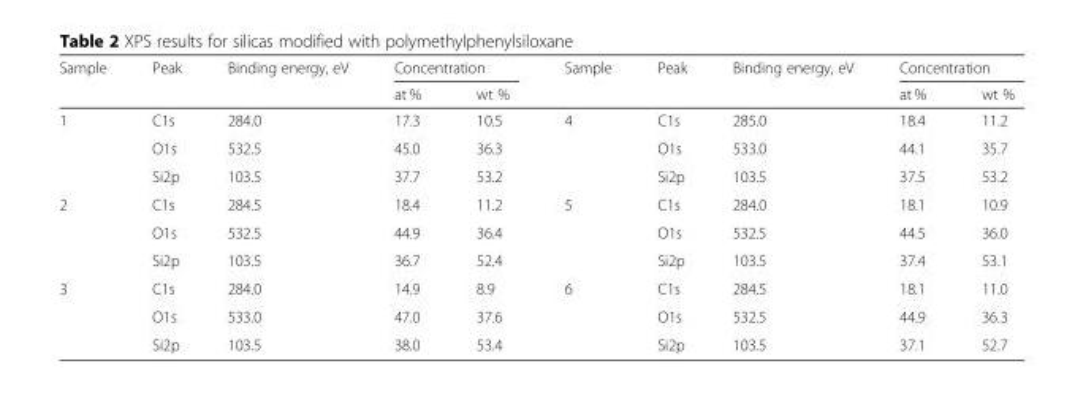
<table><thead><tr><td rowspan="2">Sample</td><td rowspan="2">Peak</td><td rowspan="2">Binding energy, eV</td><td colspan="2">Concentration</td><td rowspan="2">Sample</td><td rowspan="2">Peak</td><td rowspan="2">Binding energy, eV</td><td colspan="2">Concentration</td></tr><tr><td>at %</td><td>wt %</td><td>at %</td><td>wt %</td></tr></thead><tbody><tr><td rowspan="3">1</td><td>C1s</td><td>284.0</td><td>17.3</td><td>10.5</td><td rowspan="3">4</td><td>C1s</td><td>285.0</td><td>18.4</td><td>11.2</td></tr><tr><td>O1s</td><td>532.5</td><td>45.0</td><td>36.3</td><td>O1s</td><td>533.0</td><td>44.1</td><td>35.7</td></tr><tr><td>Si2p</td><td>103.5</td><td>37.7</td><td>53.2</td><td>Si2p</td><td>103.5</td><td>37.5</td><td>53.2</td></tr><tr><td rowspan="3">2</td><td>C1s</td><td>284.5</td><td>18.4</td><td>11.2</td><td rowspan="3">5</td><td>C1s</td><td>284.0</td><td>18.1</td><td>10.9</td></tr><tr><td>O1s</td><td>532.5</td><td>44.9</td><td>36.4</td><td>O1s</td><td>532.5</td><td>44.5</td><td>36.0</td></tr><tr><td>Si2p</td><td>103.5</td><td>36.7</td><td>52.4</td><td>Si2p</td><td>103.5</td><td>37.4</td><td>53.1</td></tr><tr><td rowspan="3">3</td><td>C1s</td><td>284.0</td><td>14.9</td><td>8.9</td><td rowspan="3">6</td><td>C1s</td><td>284.5</td><td>18.1</td><td>11.0</td></tr><tr><td>O1s</td><td>533.0</td><td>47.0</td><td>37.6</td><td>O1s</td><td>532.5</td><td>44.9</td><td>36.3</td></tr><tr><td>Si2p</td><td>103.5</td><td>38.0</td><td>53.4</td><td>Si2p</td><td>103.5</td><td>37.1</td><td>52.7</td></tr></tbody></table>